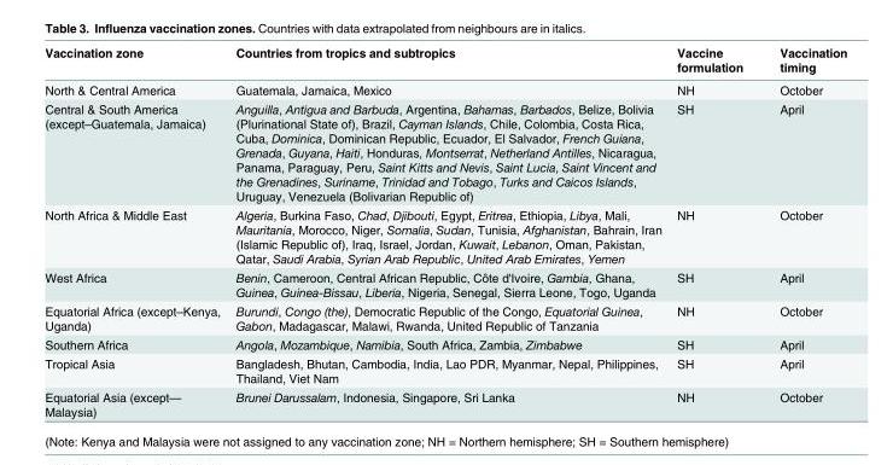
<table><thead><tr><td>Vaccination zone</td><td>Countries from tropics and subtropics</td><td>Vaccine formulation</td><td>Vaccination timing</td></tr></thead><tbody><tr><td>North &amp; Central America</td><td>Guatemala, Jamaica, Mexico</td><td>NH</td><td>October</td></tr><tr><td>Central &amp; South America (except–Guatemala, Jamaica)</td><td>Anguilla, Antigua and Barbuda, Argentina, Bahamas, Barbados, Belize, Bolivia (Plurinational State of), Brazil, Cayman Islands, Chile, Colombia, Costa Rica, Cuba, Dominica, Dominican Republic, Ecuador, El Salvador, French Guiana, Grenada, Guyana, Haiti, Honduras, Montserrat, Netherland Antilles, Nicaragua, Panama, Paraguay, Peru, Saint Kitts and Nevis, Saint Lucia, Saint Vincent and the Grenadines, Suriname, Trinidad and Tobago, Turks and Caicos Islands, Uruguay, Venezuela (Bolivarian Republic of)</td><td>SH</td><td>April</td></tr><tr><td>North Africa &amp; Middle East</td><td>Algeria, Burkina Faso, Chad, Djibouti, Egypt, Eritrea, Ethiopia, Libya, Mali, Mauritania, Morocco, Niger, Somalia, Sudan, Tunisia, Afghanistan, Bahrain, Iran (Islamic Republic of), Iraq, Israel, Jordan, Kuwait, Lebanon, Oman, Pakistan, Qatar, Saudi Arabia, Syrian Arab Republic, United Arab Emirates, Yemen</td><td>NH</td><td>October</td></tr><tr><td>West Africa</td><td>Benin, Cameroon, Central African Republic, Côte d&#x27;Ivoire, Gambia, Ghana, Guinea, Guinea-Bissau, Liberia, Nigeria, Senegal, Sierra Leone, Togo, Uganda</td><td>SH</td><td>April</td></tr><tr><td>Equatorial Africa (except–Kenya, Uganda)</td><td>Burundi, Congo (the), Democratic Republic of the Congo, Equatorial Guinea, Gabon, Madagascar, Malawi, Rwanda, United Republic of Tanzania</td><td>NH</td><td>October</td></tr><tr><td>Southern Africa</td><td>Angola, Mozambique, Namibia, South Africa, Zambia, Zimbabwe</td><td>SH</td><td>April</td></tr><tr><td>Tropical Asia</td><td>Bangladesh, Bhutan, Cambodia, India, Lao PDR, Myanmar, Nepal, Philippines, Thailand, Viet Nam</td><td>SH</td><td>April</td></tr><tr><td>Equatorial Asia (except— Malaysia)</td><td>Brunei Darussalam, Indonesia, Singapore, Sri Lanka</td><td>NH</td><td>October</td></tr></tbody></table>